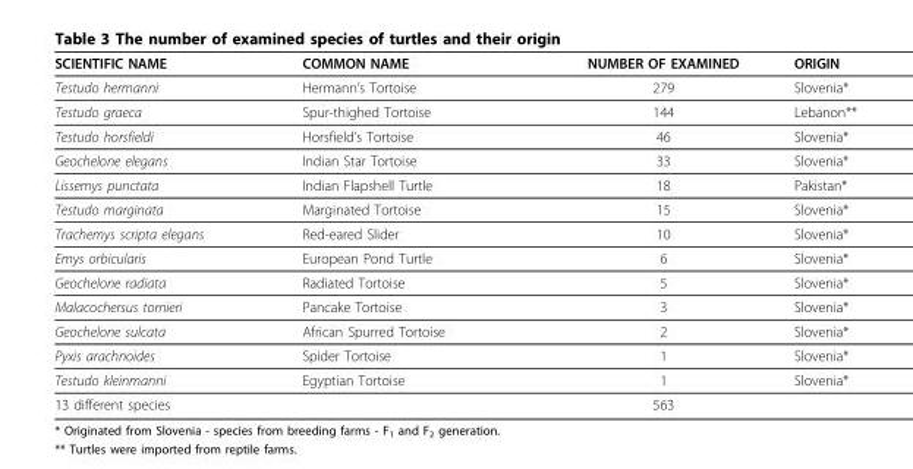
<table><thead><tr><td>SCIENTIFIC NAME</td><td>COMMON NAME</td><td>NUMBER OF EXAMINED</td><td>ORIGIN</td></tr></thead><tbody><tr><td>Testudo hermanni</td><td>Hermann’s Tortoise</td><td>279</td><td>Slovenia*</td></tr><tr><td>Testudo graeca</td><td>Spur-thighed Tortoise</td><td>144</td><td>Lebanon**</td></tr><tr><td>Testudo horsfieldi</td><td>Horsfield’s Tortoise</td><td>46</td><td>Slovenia*</td></tr><tr><td>Geochelone elegans</td><td>Indian Star Tortoise</td><td>33</td><td>Slovenia*</td></tr><tr><td>Lissemys punctata</td><td>Indian Flapshell Turtle</td><td>18</td><td>Pakistan*</td></tr><tr><td>Testudo marginata</td><td>Marginated Tortoise</td><td>15</td><td>Slovenia*</td></tr><tr><td>Trachemys scripta elegans</td><td>Red-eared Slider</td><td>10</td><td>Slovenia*</td></tr><tr><td>Emys orbicularis</td><td>European Pond Turtle</td><td>6</td><td>Slovenia*</td></tr><tr><td>Geochelone radiata</td><td>Radiated Tortoise</td><td>5</td><td>Slovenia*</td></tr><tr><td>Malacochersus tornieri</td><td>Pancake Tortoise</td><td>3</td><td>Slovenia*</td></tr><tr><td>Geochelone sulcata</td><td>African Spurred Tortoise</td><td>2</td><td>Slovenia*</td></tr><tr><td>Pyxis arachnoides</td><td>Spider Tortoise</td><td>1</td><td>Slovenia*</td></tr><tr><td>Testudo kleinmanni</td><td>Egyptian Tortoise</td><td>1</td><td>Slovenia*</td></tr><tr><td>13 different species</td><td></td><td>563</td><td></td></tr></tbody></table>